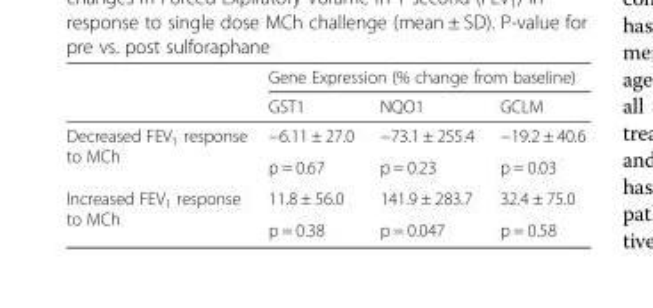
<table><thead><tr><td rowspan="2"></td><td colspan="3">Gene Expression (% change from baseline)</td></tr><tr><td>GST1</td><td>NQO1</td><td>GCLM</td></tr></thead><tbody><tr><td rowspan="2">Decreased FEV<sub>1</sub> response to MCh</td><td>−6.11 ± 27.0</td><td>−73.1 ± 255.4</td><td>−19.2 ± 40.6</td></tr><tr><td>p = 0.67</td><td>p = 0.23</td><td>p = 0.03</td></tr><tr><td rowspan="2">Increased FEV<sub>1</sub> response to MCh</td><td>11.8 ± 56.0</td><td>141.9 ± 283.7</td><td>32.4 ± 75.0</td></tr><tr><td>p = 0.38</td><td>p = 0.047</td><td>p = 0.58</td></tr></tbody></table>